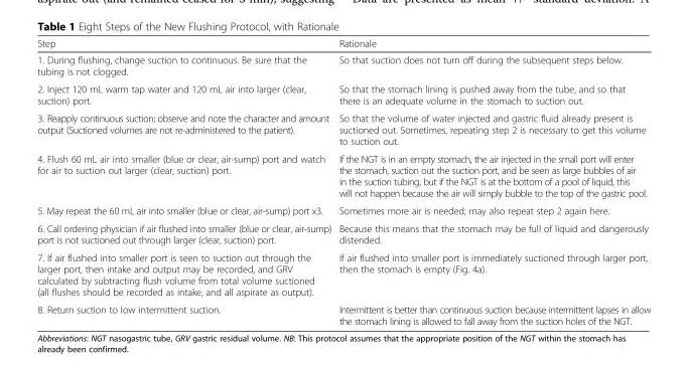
<table><thead><tr><td>Step</td><td>Rationale</td></tr></thead><tbody><tr><td>1. During flushing, change suction to continuous. Be sure that the tubing is not clogged.</td><td>So that suction does not turn off during the subsequent steps below.</td></tr><tr><td>2. Inject 120 mL warm tap water and 120 mL air into larger (clear, suction) port.</td><td>So that the stomach lining is pushed away from the tube, and so that there is an adequate volume in the stomach to suction out.</td></tr><tr><td>3. Reapply continuous suction; observe and note the character and amount output (Suctioned volumes are not re-administered to the patient).</td><td>So that the volume of water injected and gastric fluid already present is suctioned out. Sometimes, repeating step 2 is necessary to get this volume to suction out.</td></tr><tr><td>4. Flush 60 mL air into smaller (blue or clear, air-sump) port and watch for air to suction out larger (clear, suction) port.</td><td>If the NGT is in an empty stomach, the air injected in the small port will enter the stomach, suction out the suction port, and be seen as large bubbles of air in the suction tubing, but if the NGT is at the bottom of a pool of liquid, this will not happen because the air will simply bubble to the top of the gastric pool.</td></tr><tr><td>5. May repeat the 60 mL air into smaller (blue or clear, air-sump) port x3.</td><td>Sometimes more air is needed; may also repeat step 2 again here.</td></tr><tr><td>6. Call ordering physician if air flushed into smaller (blue or clear, air-sump) port is not suctioned out through larger (clear, suction) port.</td><td>Because this means that the stomach may be full of liquid and dangerously distended.</td></tr><tr><td>7. If air flushed into smaller port is seen to suction out through the larger port, then intake and output may be recorded, and GRV calculated by subtracting flush volume from total volume suctioned (all flushes should be recorded as intake, and all aspirate as output).</td><td>If air flushed into smaller port is immediately suctioned through larger port, then the stomach is empty (Fig. 4a).</td></tr><tr><td>8. Return suction to low intermittent suction.</td><td>Intermittent is better than continuous suction because intermittent lapses in allow the stomach lining is allowed to fall away from the suction holes of the NGT.</td></tr></tbody></table>